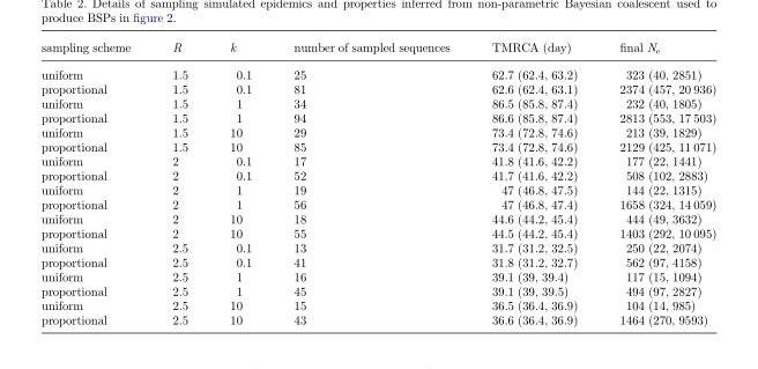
<table><thead><tr><td>sampling scheme</td><td>R</td><td>k</td><td>number of sampled sequences</td><td>TMRCA (day)</td><td>final N<sub>e</sub></td></tr></thead><tbody><tr><td>uniform</td><td>1.5</td><td>0.1</td><td>25</td><td>62.7 (62.4, 63.2)</td><td>323 (40, 2851)</td></tr><tr><td>proportional</td><td>1.5</td><td>0.1</td><td>81</td><td>62.6 (62.4, 63.1)</td><td>2374 (457, 20 936)</td></tr><tr><td>uniform</td><td>1.5</td><td>1</td><td>34</td><td>86.5 (85.8, 87.4)</td><td>232 (40, 1805)</td></tr><tr><td>proportional</td><td>1.5</td><td>1</td><td>94</td><td>86.6 (85.8, 87.4)</td><td>2813 (553, 17 503)</td></tr><tr><td>uniform</td><td>1.5</td><td>10</td><td>29</td><td>73.4 (72.8, 74.6)</td><td>213 (39, 1829)</td></tr><tr><td>proportional</td><td>1.5</td><td>10</td><td>85</td><td>73.4 (72.8, 74.6)</td><td>2129 (425, 11 071)</td></tr><tr><td>uniform</td><td>2</td><td>0.1</td><td>17</td><td>41.8 (41.6, 42.2)</td><td>177 (22, 1441)</td></tr><tr><td>proportional</td><td>2</td><td>0.1</td><td>52</td><td>41.7 (41.6, 42.2)</td><td>508 (102, 2883)</td></tr><tr><td>uniform</td><td>2</td><td>1</td><td>19</td><td>47 (46.8, 47.5)</td><td>144 (22, 1315)</td></tr><tr><td>proportional</td><td>2</td><td>1</td><td>56</td><td>47 (46.8, 47.4)</td><td>1658 (324, 14 059)</td></tr><tr><td>uniform</td><td>2</td><td>10</td><td>18</td><td>44.6 (44.2, 45.4)</td><td>444 (49, 3632)</td></tr><tr><td>proportional</td><td>2</td><td>10</td><td>55</td><td>44.5 (44.2, 45.4)</td><td>1403 (292, 10 095)</td></tr><tr><td>uniform</td><td>2.5</td><td>0.1</td><td>13</td><td>31.7 (31.2, 32.5)</td><td>250 (22, 2074)</td></tr><tr><td>proportional</td><td>2.5</td><td>0.1</td><td>41</td><td>31.8 (31.2, 32.7)</td><td>562 (97, 4158)</td></tr><tr><td>uniform</td><td>2.5</td><td>1</td><td>16</td><td>39.1 (39, 39.4)</td><td>117 (15, 1094)</td></tr><tr><td>proportional</td><td>2.5</td><td>1</td><td>45</td><td>39.1 (39, 39.5)</td><td>494 (97, 2827)</td></tr><tr><td>uniform</td><td>2.5</td><td>10</td><td>15</td><td>36.5 (36.4, 36.9)</td><td>104 (14, 985)</td></tr><tr><td>proportional</td><td>2.5</td><td>10</td><td>43</td><td>36.6 (36.4, 36.9)</td><td>1464 (270, 9593)</td></tr></tbody></table>